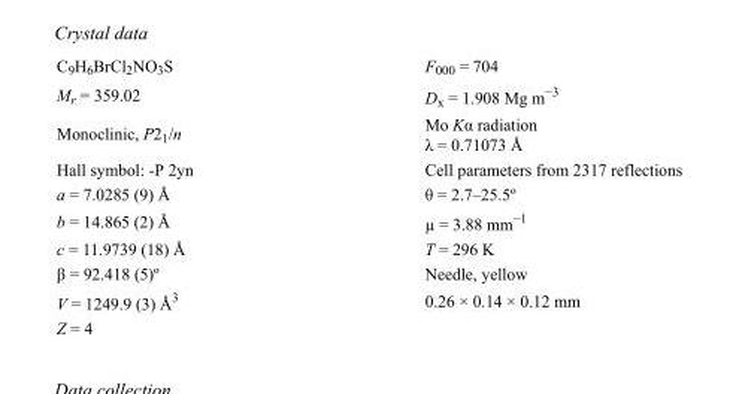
<table><tbody><tr><td>C<sub>9</sub>H<sub>6</sub>BrCl<sub>2</sub>NO<sub>3</sub>S</td><td>F000 = 704</td></tr><tr><td>M<sub>r</sub> = 359.02</td><td>D<sub>x</sub> = 1.908 Mg m<sup>−3</sup></td></tr><tr><td>Monoclinic, P2<sub>1</sub>/n</td><td>Mo Kα radiation λ = 0.71073 Å</td></tr><tr><td>Hall symbol: -P 2yn</td><td>Cell parameters from 2317 reflections</td></tr><tr><td>a = 7.0285 (9) Å</td><td>θ = 2.7–25.5º</td></tr><tr><td>b = 14.865 (2) Å</td><td>µ = 3.88 mm<sup>−1</sup></td></tr><tr><td>c = 11.9739 (18) Å</td><td>T = 296 K</td></tr><tr><td>β = 92.418 (5)º</td><td>Needle, yellow</td></tr><tr><td>V = 1249.9 (3) Å<sup>3</sup></td><td>0.26 × 0.14 × 0.12 mm</td></tr><tr><td>Z = 4</td><td></td></tr></tbody></table>